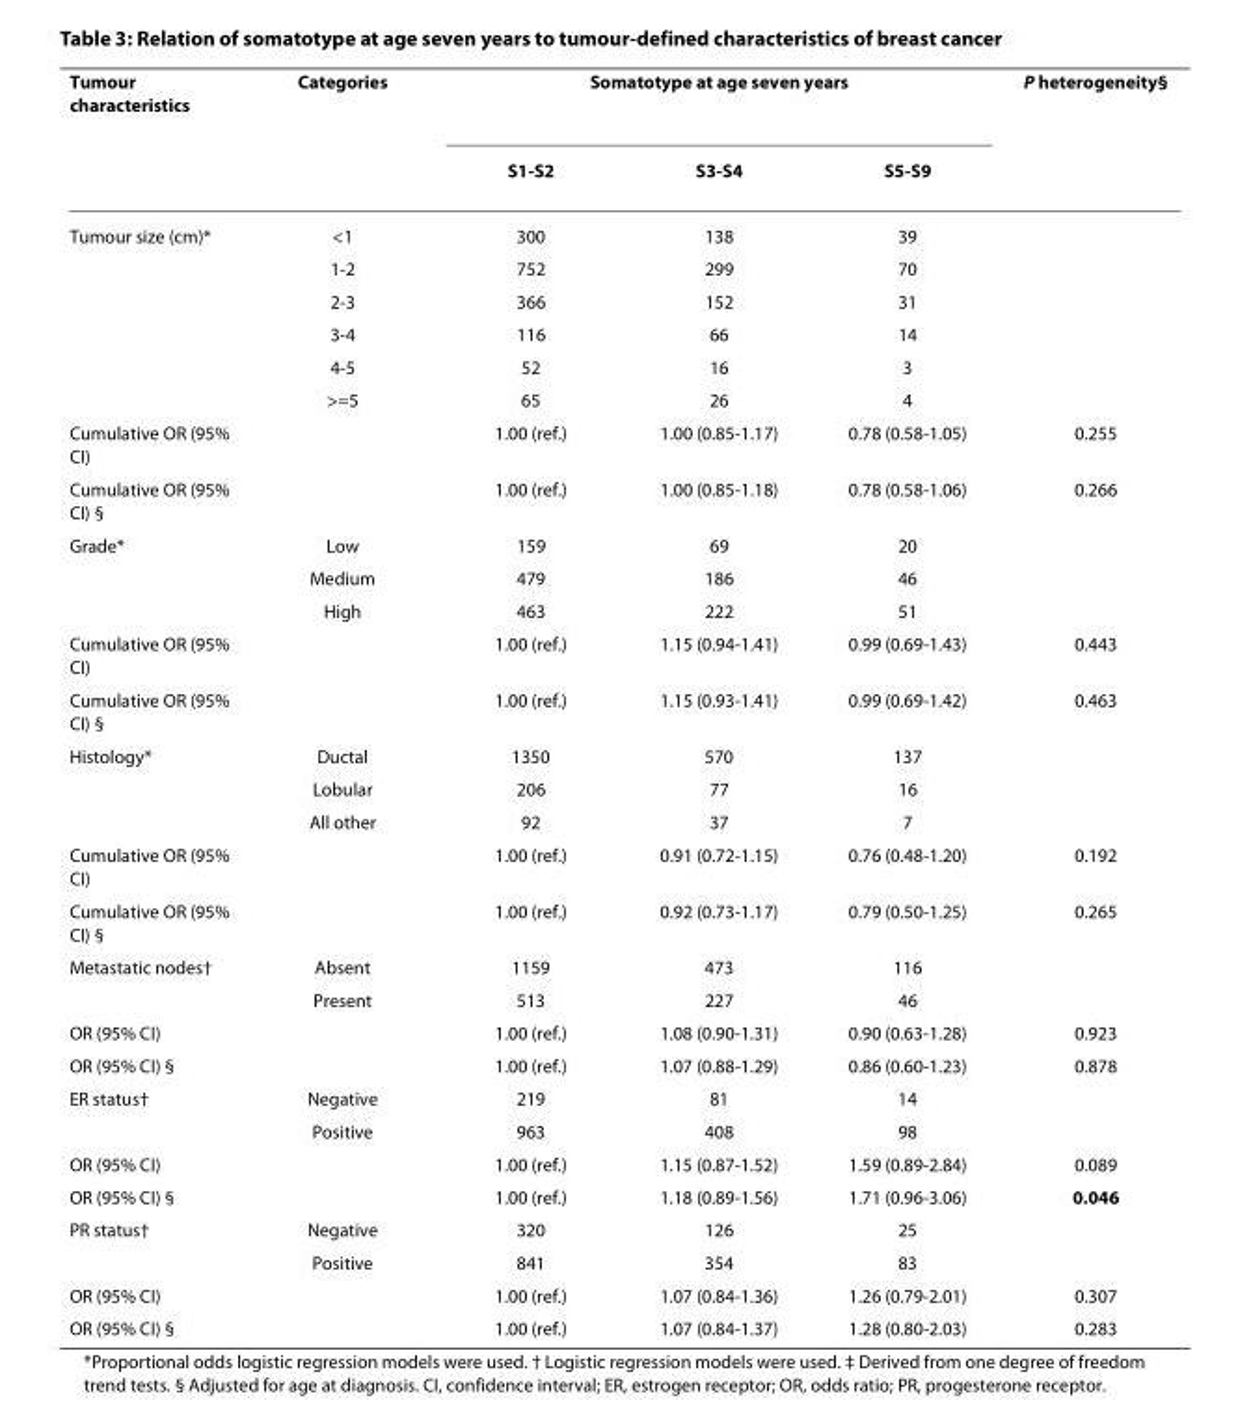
<table><thead><tr><td rowspan="2">Tumour characteristics</td><td rowspan="2">Categories</td><td colspan="3">Somatotype at age seven years</td><td rowspan="2">P heterogeneity§</td></tr><tr><td>S1-S2</td><td>S3-S4</td><td>S5-S9</td></tr></thead><tbody><tr><td rowspan="6">Tumour size (cm)*</td><td>&lt;1</td><td>300</td><td>138</td><td>39</td><td></td></tr><tr><td>1-2</td><td>752</td><td>299</td><td>70</td><td></td></tr><tr><td>2-3</td><td>366</td><td>152</td><td>31</td><td></td></tr><tr><td>3-4</td><td>116</td><td>66</td><td>14</td><td></td></tr><tr><td>4-5</td><td>52</td><td>16</td><td>3</td><td></td></tr><tr><td>&gt;=5</td><td>65</td><td>26</td><td>4</td><td></td></tr><tr><td>Cumulative OR (95% CI)</td><td></td><td>1.00 (ref.)</td><td>1.00 (0.85-1.17)</td><td>0.78 (0.58-1.05)</td><td>0.255</td></tr><tr><td>Cumulative OR (95% CI) §</td><td></td><td>1.00 (ref.)</td><td>1.00 (0.85-1.18)</td><td>0.78 (0.58-1.06)</td><td>0.266</td></tr><tr><td rowspan="3">Grade*</td><td>Low</td><td>159</td><td>69</td><td>20</td><td></td></tr><tr><td>Medium</td><td>479</td><td>186</td><td>46</td><td></td></tr><tr><td>High</td><td>463</td><td>222</td><td>51</td><td></td></tr><tr><td>Cumulative OR (95% CI)</td><td></td><td>1.00 (ref.)</td><td>1.15 (0.94-1.41)</td><td>0.99 (0.69-1.43)</td><td>0.443</td></tr><tr><td>Cumulative OR (95% CI) §</td><td></td><td>1.00 (ref.)</td><td>1.15 (0.93-1.41)</td><td>0.99 (0.69-1.42)</td><td>0.463</td></tr><tr><td rowspan="3">Histology*</td><td>Ductal</td><td>1350</td><td>570</td><td>137</td><td></td></tr><tr><td>Lobular</td><td>206</td><td>77</td><td>16</td><td></td></tr><tr><td>All other</td><td>92</td><td>37</td><td>7</td><td></td></tr><tr><td>Cumulative OR (95% CI)</td><td></td><td>1.00 (ref.)</td><td>0.91 (0.72-1.15)</td><td>0.76 (0.48-1.20)</td><td>0.192</td></tr><tr><td>Cumulative OR (95% CI) §</td><td></td><td>1.00 (ref.)</td><td>0.92 (0.73-1.17)</td><td>0.79 (0.50-1.25)</td><td>0.265</td></tr><tr><td rowspan="2">Metastatic nodes†</td><td>Absent</td><td>1159</td><td>473</td><td>116</td><td></td></tr><tr><td>Present</td><td>513</td><td>227</td><td>46</td><td></td></tr><tr><td>OR (95% CI)</td><td></td><td>1.00 (ref.)</td><td>1.08 (0.90-1.31)</td><td>0.90 (0.63-1.28)</td><td>0.923</td></tr><tr><td>OR (95% CI) §</td><td></td><td>1.00 (ref.)</td><td>1.07 (0.88-1.29)</td><td>0.86 (0.60-1.23)</td><td>0.878</td></tr><tr><td rowspan="2">ER status†</td><td>Negative</td><td>219</td><td>81</td><td>14</td><td></td></tr><tr><td>Positive</td><td>963</td><td>408</td><td>98</td><td></td></tr><tr><td>OR (95% CI)</td><td></td><td>1.00 (ref.)</td><td>1.15 (0.87-1.52)</td><td>1.59 (0.89-2.84)</td><td>0.089</td></tr><tr><td>OR (95% CI) §</td><td></td><td>1.00 (ref.)</td><td>1.18 (0.89-1.56)</td><td>1.71 (0.96-3.06)</td><td>0.046</td></tr><tr><td rowspan="2">PR status†</td><td>Negative</td><td>320</td><td>126</td><td>25</td><td></td></tr><tr><td>Positive</td><td>841</td><td>354</td><td>83</td><td></td></tr><tr><td>OR (95% CI)</td><td></td><td>1.00 (ref.)</td><td>1.07 (0.84-1.36)</td><td>1.26 (0.79-2.01)</td><td>0.307</td></tr><tr><td>OR (95% CI) §</td><td></td><td>1.00 (ref.)</td><td>1.07 (0.84-1.37)</td><td>1.28 (0.80-2.03)</td><td>0.283</td></tr></tbody></table>